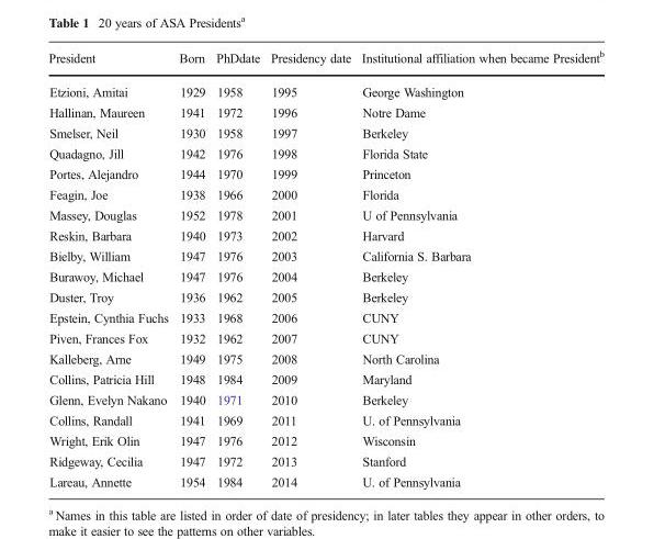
<table><thead><tr><td>President</td><td>Born</td><td>PhDdate</td><td>Presidency date</td><td>Institutional affiliation when became President<sup>b</sup></td></tr></thead><tbody><tr><td>Etzioni, Amitai</td><td>1929</td><td>1958</td><td>1995</td><td>George Washington</td></tr><tr><td>Hallinan, Maureen</td><td>1941</td><td>1972</td><td>1996</td><td>Notre Dame</td></tr><tr><td>Smelser, Neil</td><td>1930</td><td>1958</td><td>1997</td><td>Berkeley</td></tr><tr><td>Quadagno, Jill</td><td>1942</td><td>1976</td><td>1998</td><td>Florida State</td></tr><tr><td>Portes, Alejandro</td><td>1944</td><td>1970</td><td>1999</td><td>Princeton</td></tr><tr><td>Feagin, Joe</td><td>1938</td><td>1966</td><td>2000</td><td>Florida</td></tr><tr><td>Massey, Douglas</td><td>1952</td><td>1978</td><td>2001</td><td>U of Pennsylvania</td></tr><tr><td>Reskin, Barbara</td><td>1940</td><td>1973</td><td>2002</td><td>Harvard</td></tr><tr><td>Bielby, William</td><td>1947</td><td>1976</td><td>2003</td><td>California S. Barbara</td></tr><tr><td>Burawoy, Michael</td><td>1947</td><td>1976</td><td>2004</td><td>Berkeley</td></tr><tr><td>Duster, Troy</td><td>1936</td><td>1962</td><td>2005</td><td>Berkeley</td></tr><tr><td>Epstein, Cynthia Fuchs</td><td>1933</td><td>1968</td><td>2006</td><td>CUNY</td></tr><tr><td>Piven, Frances Fox</td><td>1932</td><td>1962</td><td>2007</td><td>CUNY</td></tr><tr><td>Kalleberg, Arne</td><td>1949</td><td>1975</td><td>2008</td><td>North Carolina</td></tr><tr><td>Collins, Patricia Hill</td><td>1948</td><td>1984</td><td>2009</td><td>Maryland</td></tr><tr><td>Glenn, Evelyn Nakano</td><td>1940</td><td>1971</td><td>2010</td><td>Berkeley</td></tr><tr><td>Collins, Randall</td><td>1941</td><td>1969</td><td>2011</td><td>U. of Pennsylvania</td></tr><tr><td>Wright, Erik Olin</td><td>1947</td><td>1976</td><td>2012</td><td>Wisconsin</td></tr><tr><td>Ridgeway, Cecilia</td><td>1947</td><td>1972</td><td>2013</td><td>Stanford</td></tr><tr><td>Lareau, Annette</td><td>1954</td><td>1984</td><td>2014</td><td>U. of Pennsylvania</td></tr></tbody></table>